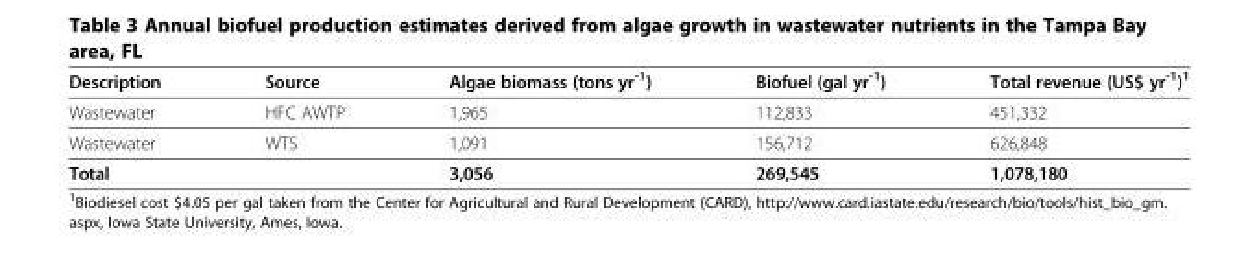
<table><thead><tr><td>Description</td><td>Source</td><td>Algae biomass (tons yr<sup>-1</sup>)</td><td>Biofuel (gal yr<sup>-1</sup>)</td><td>Total revenue (US$ yr<sup>-1</sup>)<sup>1</sup></td></tr></thead><tbody><tr><td>Wastewater</td><td>HFC AWTP</td><td>1,965</td><td>112,833</td><td>451,332</td></tr><tr><td>Wastewater</td><td>WTS</td><td>1,091</td><td>156,712</td><td>626,848</td></tr><tr><td>Total</td><td></td><td>3,056</td><td>269,545</td><td>1,078,180</td></tr></tbody></table>